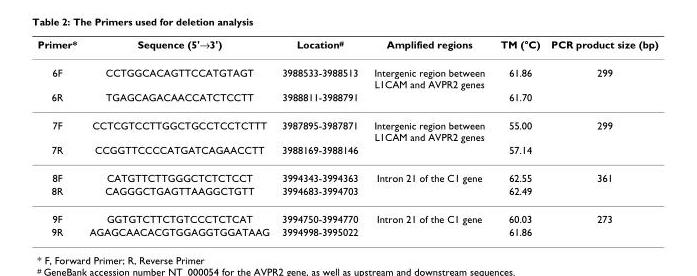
<table><thead><tr><td>Primer*</td><td>Sequence (5&#x27;→3&#x27;)</td><td>Location<sup>#</sup></td><td>Amplified regions</td><td>TM (°C)</td><td>PCR product size (bp)</td></tr></thead><tbody><tr><td>6F</td><td>CCTGGCACAGTTCCATGTAGT</td><td>3988533-3988513</td><td>Intergenic region between L1CAM and AVPR2 genes</td><td>61.86</td><td>299</td></tr><tr><td>6R</td><td>TGAGCAGACAACCATCTCCTT</td><td>3988811-3988791</td><td></td><td>61.70</td><td></td></tr><tr><td>7F</td><td>CCTCGTCCTTGGCTGCCTCCTCTTT</td><td>3987895-3987871</td><td>Intergenic region between L1CAM and AVPR2 genes</td><td>55.00</td><td>299</td></tr><tr><td>7R</td><td>CCGGTTCCCCATGATCAGAACCTT</td><td>3988169-3988146</td><td></td><td>57.14</td><td></td></tr><tr><td>8F</td><td>CATGTTCTTGGGCTCTCTCCT</td><td>3994343-3994363</td><td>Intron 21 of the C1 gene</td><td>62.55</td><td>361</td></tr><tr><td>8R</td><td>CAGGGCTGAGTTAAGGCTGTT</td><td>3994683-3994703</td><td></td><td>62.49</td><td></td></tr><tr><td>9F</td><td>GGTGTCTTCTGTCCCTCTCAT</td><td>3994750-3994770</td><td>Intron 21 of the C1 gene</td><td>60.03</td><td>273</td></tr><tr><td>9R</td><td>AGAGCAACACGTGGAGGTGGATAAG</td><td>3994998-3995022</td><td></td><td>61.86</td><td></td></tr></tbody></table>